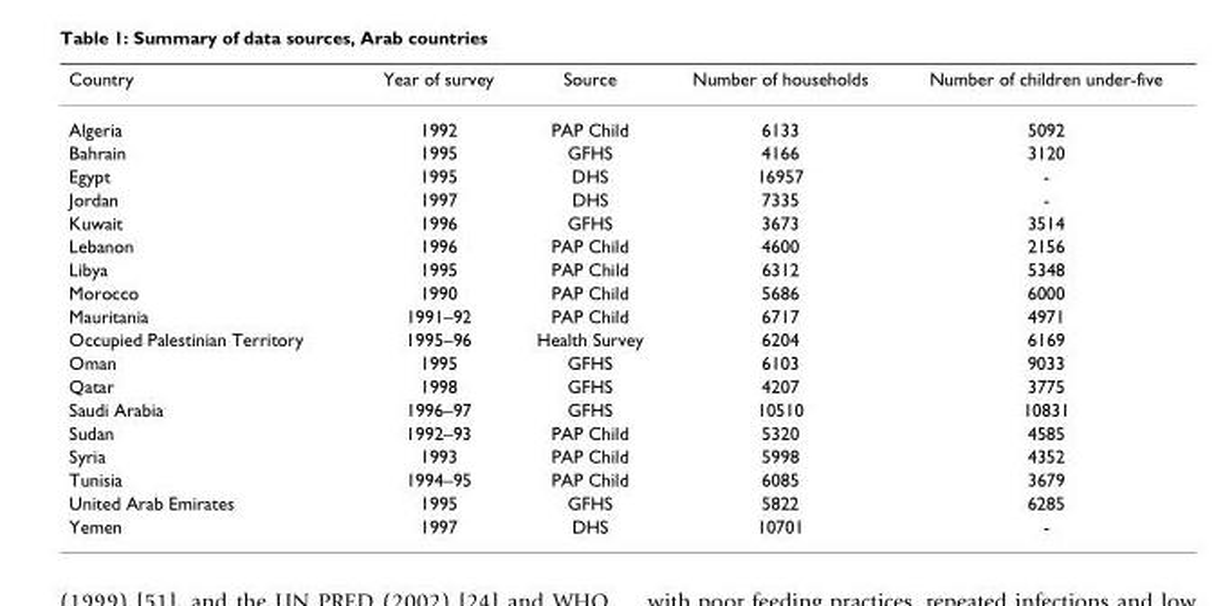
<table><thead><tr><td>Country</td><td>Year of survey</td><td>Source</td><td>Number of households</td><td>Number of children under-five</td></tr></thead><tbody><tr><td>Algeria</td><td>1992</td><td>PAP Child</td><td>6133</td><td>5092</td></tr><tr><td>Bahrain</td><td>1995</td><td>GFHS</td><td>4166</td><td>3120</td></tr><tr><td>Egypt</td><td>1995</td><td>DHS</td><td>16957</td><td>-</td></tr><tr><td>Jordan</td><td>1997</td><td>DHS</td><td>7335</td><td>-</td></tr><tr><td>Kuwait</td><td>1996</td><td>GFHS</td><td>3673</td><td>3514</td></tr><tr><td>Lebanon</td><td>1996</td><td>PAP Child</td><td>4600</td><td>2156</td></tr><tr><td>Libya</td><td>1995</td><td>PAP Child</td><td>6312</td><td>5348</td></tr><tr><td>Morocco</td><td>1990</td><td>PAP Child</td><td>5686</td><td>6000</td></tr><tr><td>Mauritania</td><td>1991–92</td><td>PAP Child</td><td>6717</td><td>4971</td></tr><tr><td>Occupied Palestinian Territory</td><td>1995–96</td><td>Health Survey</td><td>6204</td><td>6169</td></tr><tr><td>Oman</td><td>1995</td><td>GFHS</td><td>6103</td><td>9033</td></tr><tr><td>Qatar</td><td>1998</td><td>GFHS</td><td>4207</td><td>3775</td></tr><tr><td>Saudi Arabia</td><td>1996–97</td><td>GFHS</td><td>10510</td><td>10831</td></tr><tr><td>Sudan</td><td>1992–93</td><td>PAP Child</td><td>5320</td><td>4585</td></tr><tr><td>Syria</td><td>1993</td><td>PAP Child</td><td>5998</td><td>4352</td></tr><tr><td>Tunisia</td><td>1994–95</td><td>PAP Child</td><td>6085</td><td>3679</td></tr><tr><td>United Arab Emirates</td><td>1995</td><td>GFHS</td><td>5822</td><td>6285</td></tr><tr><td>Yemen</td><td>1997</td><td>DHS</td><td>10701</td><td>-</td></tr></tbody></table>